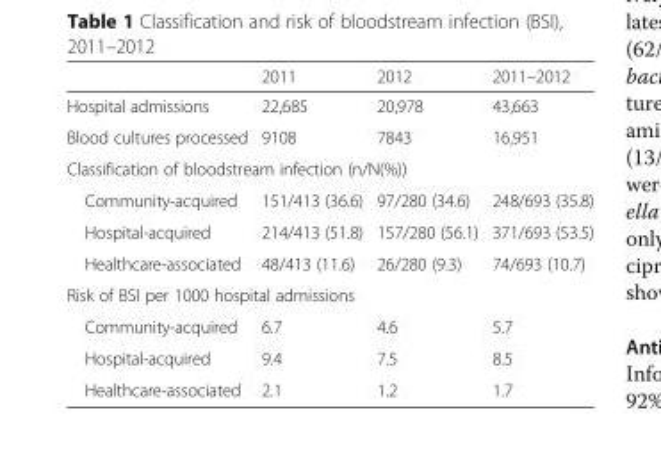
<table><thead><tr><td></td><td>2011</td><td>2012</td><td>2011–2012</td></tr></thead><tbody><tr><td>Hospital admissions</td><td>22,685</td><td>20,978</td><td>43,663</td></tr><tr><td>Blood cultures processed</td><td>9108</td><td>7843</td><td>16,951</td></tr><tr><td colspan="4">Classification of bloodstream infection (n/N(%))</td></tr><tr><td>Community-acquired</td><td>151/413 (36.6)</td><td>97/280 (34.6)</td><td>248/693 (35.8)</td></tr><tr><td>Hospital-acquired</td><td>214/413 (51.8)</td><td>157/280 (56.1)</td><td>371/693 (53.5)</td></tr><tr><td>Healthcare-associated</td><td>48/413 (11.6)</td><td>26/280 (9.3)</td><td>74/693 (10.7)</td></tr><tr><td colspan="4">Risk of BSI per 1000 hospital admissions</td></tr><tr><td>Community-acquired</td><td>6.7</td><td>4.6</td><td>5.7</td></tr><tr><td>Hospital-acquired</td><td>9.4</td><td>7.5</td><td>8.5</td></tr><tr><td>Healthcare-associated</td><td>2.1</td><td>1.2</td><td>1.7</td></tr></tbody></table>